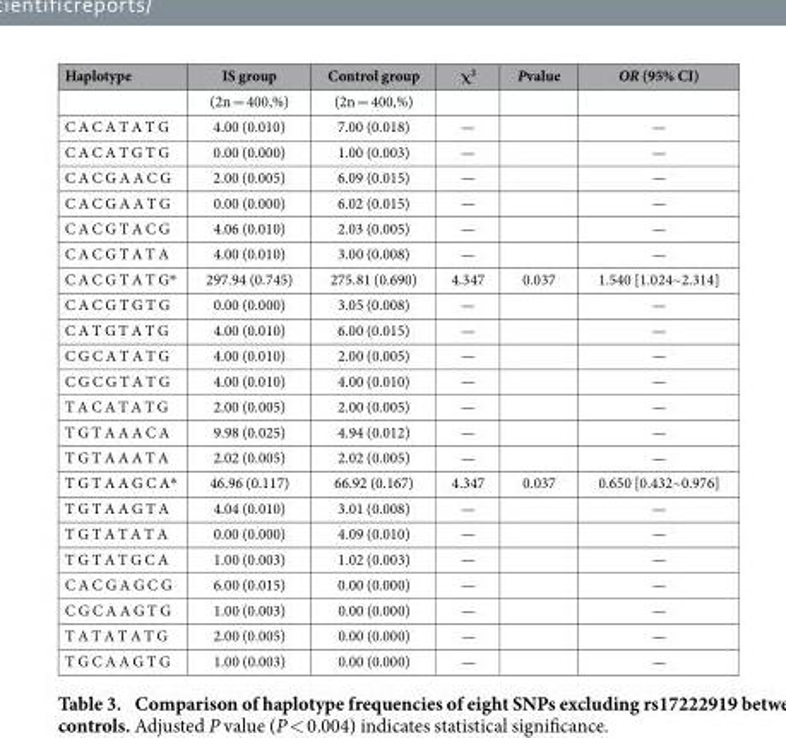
<table><thead><tr><td>Haplotype</td><td>IS group</td><td>Control group</td><td>χ<sup>2</sup></td><td>Pvalue</td><td>OR (95% CI)</td></tr></thead><tbody><tr><td></td><td>(2n = 400,%)</td><td>(2n = 400,%)</td><td></td><td></td><td></td></tr><tr><td>C A C A T A T G</td><td>4.00 (0.010)</td><td>7.00 (0.018)</td><td>—</td><td></td><td>—</td></tr><tr><td>C A C A T G T G</td><td>0.00 (0.000)</td><td>1.00 (0.003)</td><td>—</td><td></td><td>—</td></tr><tr><td>C A C G A A C G</td><td>2.00 (0.005)</td><td>6.09 (0.015)</td><td>—</td><td></td><td>—</td></tr><tr><td>C A C G A A T G</td><td>0.00 (0.000)</td><td>6.02 (0.015)</td><td>—</td><td></td><td>—</td></tr><tr><td>C A C G T A C G</td><td>4.06 (0.010)</td><td>2.03 (0.005)</td><td>—</td><td></td><td>—</td></tr><tr><td>C A C G T A T A</td><td>4.00 (0.010)</td><td>3.00 (0.008)</td><td>—</td><td></td><td>—</td></tr><tr><td>C A C G T A T G*</td><td>297.94 (0.745)</td><td>275.81 (0.690)</td><td>4.347</td><td>0.037</td><td>1.540 [1.024~2.314]</td></tr><tr><td>C A C G T G T G</td><td>0.00 (0.000)</td><td>3.05 (0.008)</td><td>—</td><td></td><td>—</td></tr><tr><td>C A T G T A T G</td><td>4.00 (0.010)</td><td>6.00 (0.015)</td><td>—</td><td></td><td>—</td></tr><tr><td>C G C A T A T G</td><td>4.00 (0.010)</td><td>2.00 (0.005)</td><td>—</td><td></td><td>—</td></tr><tr><td>C G C G T A T G</td><td>4.00 (0.010)</td><td>4.00 (0.010)</td><td>—</td><td></td><td>—</td></tr><tr><td>T A C A T A T G</td><td>2.00 (0.005)</td><td>2.00 (0.005)</td><td>—</td><td></td><td>—</td></tr><tr><td>T G T A A A C A</td><td>9.98 (0.025)</td><td>4.94 (0.012)</td><td>—</td><td></td><td>—</td></tr><tr><td>T G T A A A T A</td><td>2.02 (0.005)</td><td>2.02 (0.005)</td><td>—</td><td></td><td>—</td></tr><tr><td>T G T A A G C A*</td><td>46.96 (0.117)</td><td>66.92 (0.167)</td><td>4.347</td><td>0.037</td><td>0.650 [0.432~0.976]</td></tr><tr><td>T G T A A G T A</td><td>4.04 (0.010)</td><td>3.01 (0.008)</td><td>—</td><td></td><td>—</td></tr><tr><td>T G T A T A T A</td><td>0.00 (0.000)</td><td>4.09 (0.010)</td><td>—</td><td></td><td>—</td></tr><tr><td>T G T A T G C A</td><td>1.00 (0.003)</td><td>1.02 (0.003)</td><td>—</td><td></td><td>—</td></tr><tr><td>C A C G A G C G</td><td>6.00 (0.015)</td><td>0.00 (0.000)</td><td>—</td><td></td><td>—</td></tr><tr><td>C G C A A G T G</td><td>1.00 (0.003)</td><td>0.00 (0.000)</td><td>—</td><td></td><td>—</td></tr><tr><td>T A T A T A T G</td><td>2.00 (0.005)</td><td>0.00 (0.000)</td><td>—</td><td></td><td>—</td></tr><tr><td>T G C A A G T G</td><td>1.00 (0.003)</td><td>0.00 (0.000)</td><td>—</td><td></td><td>—</td></tr></tbody></table>